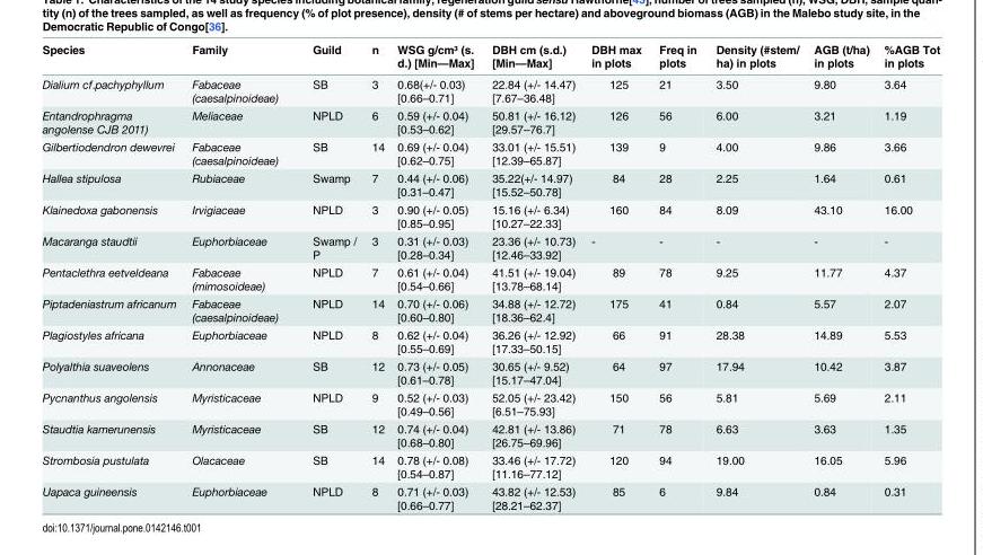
<table><thead><tr><td>Species</td><td>Family</td><td>Guild</td><td>n</td><td>WSG g/cm³ (s. d.) [Min—Max]</td><td>DBH cm (s.d.) [Min—Max]</td><td>DBH max in plots</td><td>Freq in plots</td><td>Density (#stem/ ha) in plots</td><td>AGB (t/ha) in plots</td><td>%AGB Tot in plots</td></tr></thead><tbody><tr><td>Dialium cf.pachyphyllum</td><td>Fabaceae (caesalpinoideae)</td><td>SB</td><td>3</td><td>0.68(+/- 0.03) [0.66–0.71]</td><td>22.84 (+/- 14.47) [7.67–36.48]</td><td>125</td><td>21</td><td>3.50</td><td>9.80</td><td>3.64</td></tr><tr><td>Entandrophragma angolense CJB 2011)</td><td>Meliaceae</td><td>NPLD</td><td>6</td><td>0.59 (+/- 0.04) [0.53–0.62]</td><td>50.81 (+/- 16.12) [29.57–76.7]</td><td>126</td><td>56</td><td>6.00</td><td>3.21</td><td>1.19</td></tr><tr><td>Gilbertiodendron dewevrei</td><td>Fabaceae (caesalpinoideae)</td><td>SB</td><td>14</td><td>0.69 (+/- 0.04) [0.62–0.75]</td><td>33.01 (+/- 15.51) [12.39–65.87]</td><td>139</td><td>9</td><td>4.00</td><td>9.86</td><td>3.66</td></tr><tr><td>Hallea stipulosa</td><td>Rubiaceae</td><td>Swamp</td><td>7</td><td>0.44 (+/- 0.06) [0.31–0.47]</td><td>35.22(+/- 14.97) [15.52–50.78]</td><td>84</td><td>28</td><td>2.25</td><td>1.64</td><td>0.61</td></tr><tr><td>Klainedoxa gabonensis</td><td>Irvigiaceae</td><td>NPLD</td><td>3</td><td>0.90 (+/- 0.05) [0.85–0.95]</td><td>15.16 (+/- 6.34) [10.27–22.33]</td><td>160</td><td>84</td><td>8.09</td><td>43.10</td><td>16.00</td></tr><tr><td>Macaranga staudtii</td><td>Euphorbiaceae</td><td>Swamp / P</td><td>3</td><td>0.31 (+/- 0.03) [0.28–0.34]</td><td>23.36 (+/- 10.73) [12.46–33.92]</td><td>-</td><td>-</td><td>-</td><td>-</td><td>-</td></tr><tr><td>Pentaclethra eetveldeana</td><td>Fabaceae (mimosoideae)</td><td>NPLD</td><td>7</td><td>0.61 (+/- 0.04) [0.54–0.66]</td><td>41.51 (+/- 19.04) [13.78–68.14]</td><td>89</td><td>78</td><td>9.25</td><td>11.77</td><td>4.37</td></tr><tr><td>Piptadeniastrum africanum</td><td>Fabaceae (caesalpinoideae)</td><td>NPLD</td><td>14</td><td>0.70 (+/- 0.06) [0.60–0.80]</td><td>34.88 (+/- 12.72) [18.36–62.4]</td><td>175</td><td>41</td><td>0.84</td><td>5.57</td><td>2.07</td></tr><tr><td>Plagiostyles africana</td><td>Euphorbiaceae</td><td>NPLD</td><td>8</td><td>0.62 (+/- 0.04) [0.55–0.69]</td><td>36.26 (+/- 12.92) [17.33–50.15]</td><td>66</td><td>91</td><td>28.38</td><td>14.89</td><td>5.53</td></tr><tr><td>Polyalthia suaveolens</td><td>Annonaceae</td><td>SB</td><td>12</td><td>0.73 (+/- 0.05) [0.61–0.78]</td><td>30.65 (+/- 9.52) [15.17–47.04]</td><td>64</td><td>97</td><td>17.94</td><td>10.42</td><td>3.87</td></tr><tr><td>Pycnanthus angolensis</td><td>Myristicaceae</td><td>NPLD</td><td>9</td><td>0.52 (+/- 0.03) [0.49–0.56]</td><td>52.05 (+/- 23.42) [6.51–75.93]</td><td>150</td><td>56</td><td>5.81</td><td>5.69</td><td>2.11</td></tr><tr><td>Staudtia kamerunensis</td><td>Myristicaceae</td><td>SB</td><td>12</td><td>0.74 (+/- 0.04) [0.68–0.80]</td><td>42.81 (+/- 13.86) [26.75–69.96]</td><td>71</td><td>78</td><td>6.63</td><td>3.63</td><td>1.35</td></tr><tr><td>Strombosia pustulata</td><td>Olacaceae</td><td>SB</td><td>14</td><td>0.78 (+/- 0.08) [0.54–0.87]</td><td>33.46 (+/- 17.72) [11.16–77.12]</td><td>120</td><td>94</td><td>19.00</td><td>16.05</td><td>5.96</td></tr><tr><td>Uapaca guineensis</td><td>Euphorbiaceae</td><td>NPLD</td><td>8</td><td>0.71 (+/- 0.03) [0.66–0.77]</td><td>43.82 (+/- 12.53) [28.21–62.37]</td><td>85</td><td>6</td><td>9.84</td><td>0.84</td><td>0.31</td></tr></tbody></table>